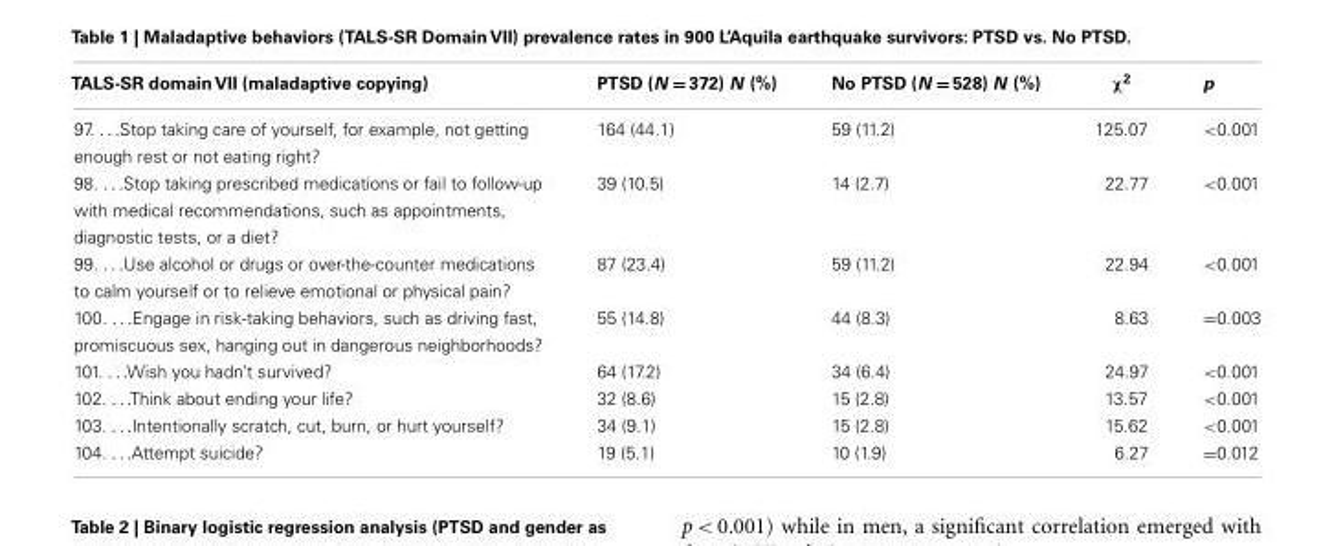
<table><thead><tr><td>TALS-SR domain VII (maladaptive copying)</td><td>PTSD (N = 372) N (%)</td><td>No PTSD (N = 528) N (%)</td><td>χ<sup>2</sup></td><td>p</td></tr></thead><tbody><tr><td>97. . . .Stop taking care of yourself, for example, not getting enough rest or not eating right?</td><td>164 (44.1)</td><td>59 (11.2)</td><td>125.07</td><td>&lt;0.001</td></tr><tr><td>98. . . .Stop taking prescribed medications or fail to follow-up with medical recommendations, such as appointments, diagnostic tests, or a diet?</td><td>39 (10.5)</td><td>14 (2.7)</td><td>22.77</td><td>&lt;0.001</td></tr><tr><td>99. . . .Use alcohol or drugs or over-the-counter medications to calm yourself or to relieve emotional or physical pain?</td><td>87 (23.4)</td><td>59 (11.2)</td><td>22.94</td><td>&lt;0.001</td></tr><tr><td>100. . . .Engage in risk-taking behaviors, such as driving fast, promiscuous sex, hanging out in dangerous neighborhoods?</td><td>55 (14.8)</td><td>44 (8.3)</td><td>8.63</td><td>=0.003</td></tr><tr><td>101. . . .Wish you hadn’t survived?</td><td>64 (17.2)</td><td>34 (6.4)</td><td>24.97</td><td>&lt;0.001</td></tr><tr><td>102. . . .Think about ending your life?</td><td>32 (8.6)</td><td>15 (2.8)</td><td>13.57</td><td>&lt;0.001</td></tr><tr><td>103. . . .Intentionally scratch, cut, burn, or hurt yourself?</td><td>34 (9.1)</td><td>15 (2.8)</td><td>15.62</td><td>&lt;0.001</td></tr><tr><td>104. . . .Attempt suicide?</td><td>19 (5.1)</td><td>10 (1.9)</td><td>6.27</td><td>=0.012</td></tr></tbody></table>